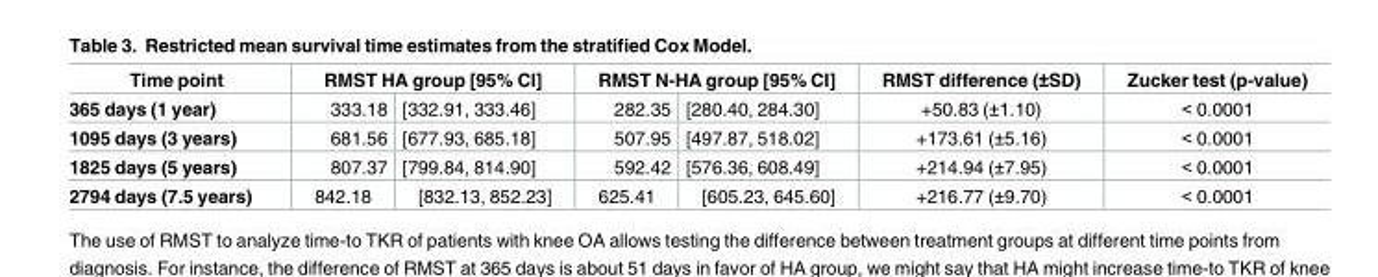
<table><thead><tr><td rowspan="2">Time point 365 days (1 year)</td><td colspan="2">RMST HA group [95% CI]</td><td colspan="2">RMST N-HA group [95% CI]</td><td rowspan="2">RMST difference (±SD) +50.83 (±1.10)</td><td rowspan="2">Zucker test (p-value) &lt; 0.0001</td></tr><tr><td>333.18</td><td>[332.91, 333.46]</td><td>282.35</td><td>[280.40, 284.30]</td></tr></thead><tbody><tr><td>1095 days (3 years)</td><td>681.56</td><td>[677.93, 685.18]</td><td>507.95</td><td>[497.87, 518.02]</td><td>+173.61 (±5.16)</td><td>&lt; 0.0001</td></tr><tr><td>1825 days (5 years)</td><td>807.37</td><td>[799.84, 814.90]</td><td>592.42</td><td>[576.36, 608.49]</td><td>+214.94 (±7.95)</td><td>&lt; 0.0001</td></tr><tr><td>2794 days (7.5 years)</td><td>842.18</td><td>[832.13, 852.23]</td><td>625.41</td><td>[605.23, 645.60]</td><td>+216.77 (±9.70)</td><td>&lt; 0.0001</td></tr></tbody></table>